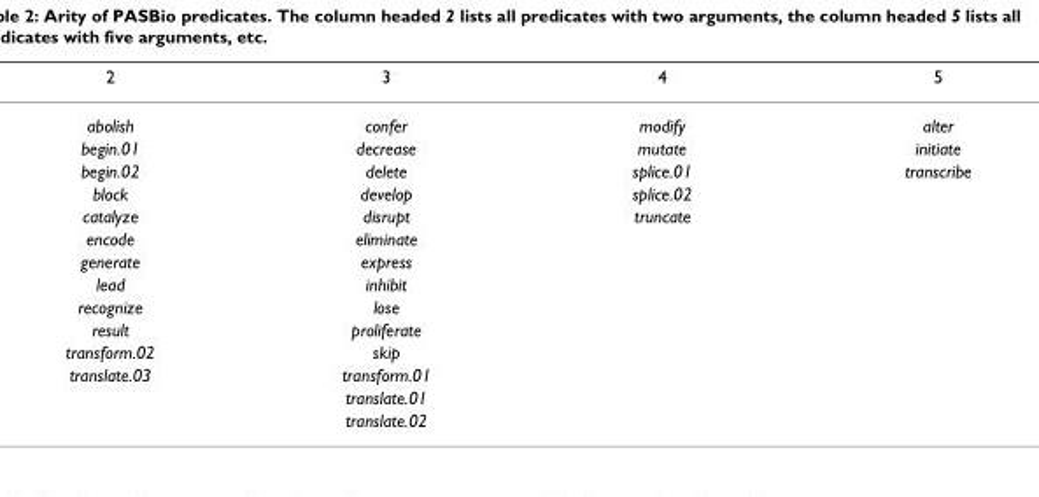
<table><thead><tr><td>2</td><td>3</td><td>4</td><td>5</td></tr></thead><tbody><tr><td>abolish</td><td>confer</td><td>modify</td><td>alter</td></tr><tr><td>begin.01</td><td>decrease</td><td>mutate</td><td>initiate</td></tr><tr><td>begin.02</td><td>delete</td><td>splice.01</td><td>transcribe</td></tr><tr><td>block</td><td>develop</td><td>splice.02</td><td></td></tr><tr><td>catalyze</td><td>disrupt</td><td>truncate</td><td></td></tr><tr><td>encode</td><td>eliminate</td><td></td><td></td></tr><tr><td>generate</td><td>express</td><td></td><td></td></tr><tr><td>lead</td><td>inhibit</td><td></td><td></td></tr><tr><td>recognize</td><td>lose</td><td></td><td></td></tr><tr><td>result</td><td>proliferate</td><td></td><td></td></tr><tr><td>transform.02</td><td>skip</td><td></td><td></td></tr><tr><td rowspan="3">translate.03</td><td>transform.01</td><td></td><td></td></tr><tr><td>translate.01</td><td></td><td></td></tr><tr><td>translate.02</td><td></td><td></td></tr></tbody></table>